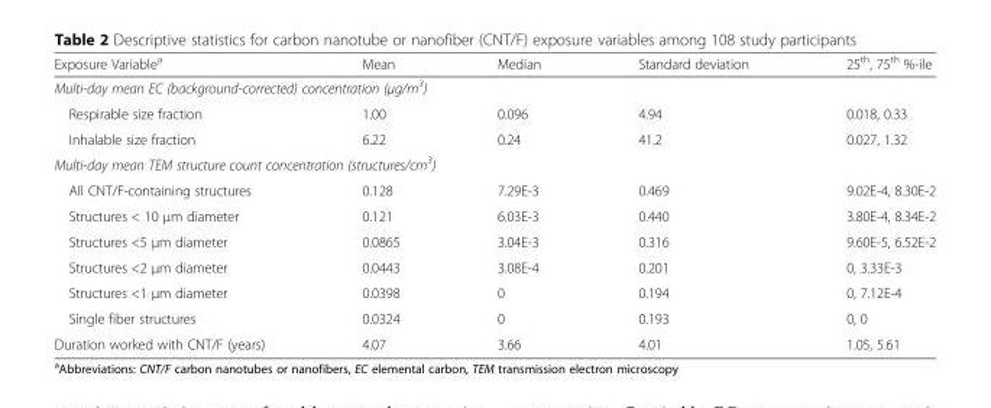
<table><thead><tr><td>Exposure Variable<sup>a</sup></td><td>Mean</td><td>Median</td><td>Standard deviation</td><td>25<sup>th</sup>, 75<sup>th</sup> %-ile</td></tr></thead><tbody><tr><td colspan="5">Multi-day mean EC (background-corrected) concentration (μg/m<sup>3</sup>)</td></tr><tr><td>Respirable size fraction</td><td>1.00</td><td>0.096</td><td>4.94</td><td>0.018, 0.33</td></tr><tr><td>Inhalable size fraction</td><td>6.22</td><td>0.24</td><td>41.2</td><td>0.027, 1.32</td></tr><tr><td colspan="5">Multi-day mean TEM structure count concentration (structures/cm<sup>3</sup>)</td></tr><tr><td>All CNT/F-containing structures</td><td>0.128</td><td>7.29E-3</td><td>0.469</td><td>9.02E-4, 8.30E-2</td></tr><tr><td>Structures &lt; 10 μm diameter</td><td>0.121</td><td>6.03E-3</td><td>0.440</td><td>3.80E-4, 8.34E-2</td></tr><tr><td>Structures &lt;5 μm diameter</td><td>0.0865</td><td>3.04E-3</td><td>0.316</td><td>9.60E-5, 6.52E-2</td></tr><tr><td>Structures &lt;2 μm diameter</td><td>0.0443</td><td>3.08E-4</td><td>0.201</td><td>0, 3.33E-3</td></tr><tr><td>Structures &lt;1 μm diameter</td><td>0.0398</td><td>0</td><td>0.194</td><td>0, 7.12E-4</td></tr><tr><td>Single fiber structures</td><td>0.0324</td><td>0</td><td>0.193</td><td>0, 0</td></tr><tr><td>Duration worked with CNT/F (years)</td><td>4.07</td><td>3.66</td><td>4.01</td><td>1.05, 5.61</td></tr></tbody></table>